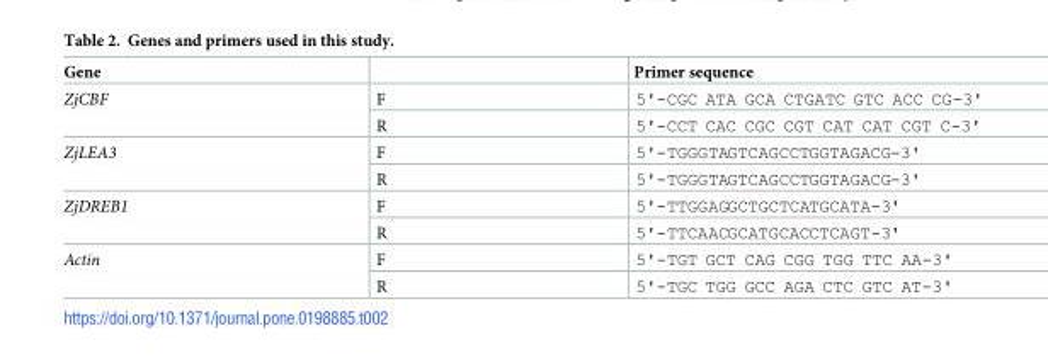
<table><thead><tr><td>Gene</td><td></td><td>Primer sequence</td></tr></thead><tbody><tr><td rowspan="2">ZjCBF</td><td>F</td><td>5&#x27;-CGC ATA GCA CTGATC GTC ACC CG-3&#x27;</td></tr><tr><td>R</td><td>5&#x27;-CCT CAC CGC CGT CAT CAT CGT C-3&#x27;</td></tr><tr><td rowspan="2">ZjLEA3</td><td>F</td><td>5&#x27;-TGGGTAGTCAGCCTGGTAGACG-3&#x27;</td></tr><tr><td>R</td><td>5&#x27;-TGGGTAGTCAGCCTGGTAGACG-3&#x27;</td></tr><tr><td rowspan="2">ZjDREB1</td><td>F</td><td>5&#x27;-TTGGAGGCTGCTCATGCATA-3&#x27;</td></tr><tr><td>R</td><td>5&#x27;-TTCAACGCATGCACCTCAGT-3&#x27;</td></tr><tr><td rowspan="2">Actin</td><td>F</td><td>5&#x27;-TGT GCT CAG CGG TGG TTC AA-3&#x27;</td></tr><tr><td>R</td><td>5&#x27;-TGC TGG GCC AGA CTC GTC AT-3&#x27;</td></tr></tbody></table>